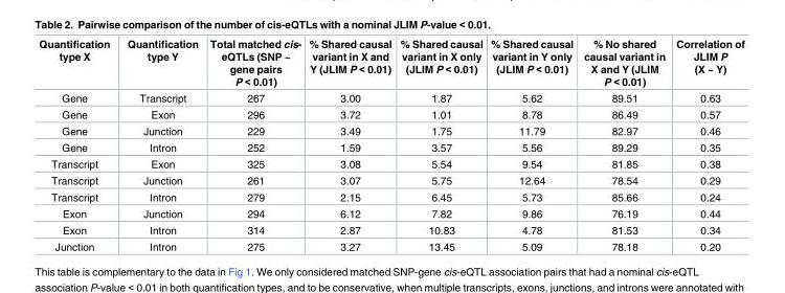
<table><thead><tr><td>Quantification type X</td><td>Quantification type Y</td><td>Total matched cis- eQTLs (SNP ~ gene pairs P &lt; 0.01)</td><td>% Shared causal variant in X and Y (JLIM P &lt; 0.01)</td><td>% Shared causal variant in X only (JLIM P &lt; 0.01)</td><td>% Shared causal variant in Y only (JLIM P &lt; 0.01)</td><td>% No shared causal variant in X and Y (JLIM P &lt; 0.01)</td><td>Correlation of JLIM P (X ~ Y)</td></tr></thead><tbody><tr><td>Gene</td><td>Transcript</td><td>267</td><td>3.00</td><td>1.87</td><td>5.62</td><td>89.51</td><td>0.63</td></tr><tr><td>Gene</td><td>Exon</td><td>296</td><td>3.72</td><td>1.01</td><td>8.78</td><td>86.49</td><td>0.57</td></tr><tr><td>Gene</td><td>Junction</td><td>229</td><td>3.49</td><td>1.75</td><td>11.79</td><td>82.97</td><td>0.46</td></tr><tr><td>Gene</td><td>Intron</td><td>252</td><td>1.59</td><td>3.57</td><td>5.56</td><td>89.29</td><td>0.35</td></tr><tr><td>Transcript</td><td>Exon</td><td>325</td><td>3.08</td><td>5.54</td><td>9.54</td><td>81.85</td><td>0.38</td></tr><tr><td>Transcript</td><td>Junction</td><td>261</td><td>3.07</td><td>5.75</td><td>12.64</td><td>78.54</td><td>0.29</td></tr><tr><td>Transcript</td><td>Intron</td><td>279</td><td>2.15</td><td>6.45</td><td>5.73</td><td>85.66</td><td>0.24</td></tr><tr><td>Exon</td><td>Junction</td><td>294</td><td>6.12</td><td>7.82</td><td>9.86</td><td>76.19</td><td>0.44</td></tr><tr><td>Exon</td><td>Intron</td><td>314</td><td>2.87</td><td>10.83</td><td>4.78</td><td>81.53</td><td>0.34</td></tr><tr><td>Junction</td><td>Intron</td><td>275</td><td>3.27</td><td>13.45</td><td>5.09</td><td>78.18</td><td>0.20</td></tr></tbody></table>